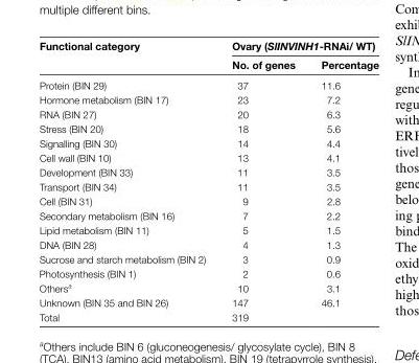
<table><thead><tr><td rowspan="2">Functional category</td><td colspan="2">Ovary (SlINVINH1-RNAi/ WT)</td></tr><tr><td>No. of genes</td><td>Percentage</td></tr></thead><tbody><tr><td>Protein (BIN 29)</td><td>37</td><td>11.6</td></tr><tr><td>Hormone metabolism (BIN 17)</td><td>23</td><td>7.2</td></tr><tr><td>RNA (BIN 27)</td><td>20</td><td>6.3</td></tr><tr><td>Stress (BIN 20)</td><td>18</td><td>5.6</td></tr><tr><td>Signalling (BIN 30)</td><td>14</td><td>4.4</td></tr><tr><td>Cell wall (BIN 10)</td><td>13</td><td>4.1</td></tr><tr><td>Development (BIN 33)</td><td>11</td><td>3.5</td></tr><tr><td>Transport (BIN 34)</td><td>11</td><td>3.5</td></tr><tr><td>Cell (BIN 31)</td><td>9</td><td>2.8</td></tr><tr><td>Secondary metabolism (BIN 16)</td><td>7</td><td>2.2</td></tr><tr><td>Lipid metabolism (BIN 11)</td><td>5</td><td>1.5</td></tr><tr><td>DNA (BIN 28)</td><td>4</td><td>1.3</td></tr><tr><td>Sucrose and starch metabolism (BIN 2)</td><td>3</td><td>0.9</td></tr><tr><td>Photosynthesis (BIN 1)</td><td>2</td><td>0.6</td></tr><tr><td>Others<sup>a</sup></td><td>10</td><td>3.1</td></tr><tr><td>Unknown (BIN 35 and BIN 26)</td><td>147</td><td>46.1</td></tr><tr><td>Total</td><td>319</td><td></td></tr></tbody></table>